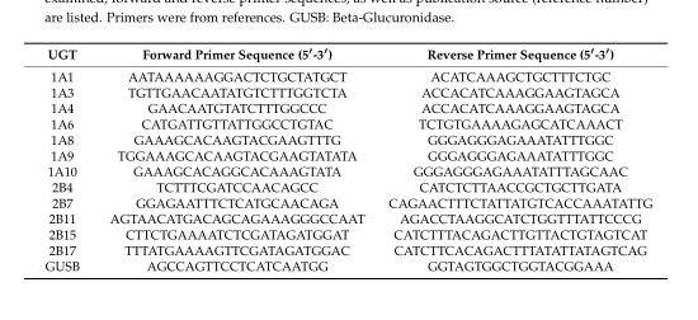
<table><thead><tr><td>UGT</td><td>Forward Primer Sequence (5′-3′)</td><td>Reverse Primer Sequence (5′-3′)</td></tr></thead><tbody><tr><td>1A1</td><td>AATAAAAAAGGACTCTGCTATGCT</td><td>ACATCAAAGCTGCTTTCTGC</td></tr><tr><td>1A3</td><td>TGTTGAACAATATGTCTTTGGTCTA</td><td>ACCACATCAAAGGAAGTAGCA</td></tr><tr><td>1A4</td><td>GAACAATGTATCTTTGGCCC</td><td>ACCACATCAAAGGAAGTAGCA</td></tr><tr><td>1A6</td><td>CATGATTGTTATTGGCCTGTAC</td><td>TCTGTGAAAAGAGCATCAAACT</td></tr><tr><td>1A8</td><td>GAAAGCACAAGTACGAAGTTTG</td><td>GGGAGGGAGAAATATTTGGC</td></tr><tr><td>1A9</td><td>TGGAAAGCACAAGTACGAAGTATATA</td><td>GGGAGGGAGAAATATTTGGC</td></tr><tr><td>1A10</td><td>GAAAGCACAGGCACAAAGTATA</td><td>GGGAGGGAGAAATATTTAGCAAC</td></tr><tr><td>2B4</td><td>TCTTTCGATCCAACAGCC</td><td>CATCTCTTAACCGCTGCTTGATA</td></tr><tr><td>2B7</td><td>GGAGAATTTCTCATGCAACAGA</td><td>CAGAACTTTCTATTATGTCACCAAATATTG</td></tr><tr><td>2B11</td><td>AGTAACATGACAGCAGAAAGGGCCAAT</td><td>AGACCTAAGGCATCTGGTTTATTCCCG</td></tr><tr><td>2B15</td><td>CTTCTGAAAATCTCGATAGATGGAT</td><td>CATCTTTACAGACTTGTTACTGTAGTCAT</td></tr><tr><td>2B17</td><td>TTTATGAAAAGTTCGATAGATGGAC</td><td>CATCTTCACAGACTTTATATTATAGTCAG</td></tr><tr><td>GUSB</td><td>AGCCAGTTCCTCATCAATGG</td><td>GGTAGTGGCTGGTACGGAAA</td></tr></tbody></table>